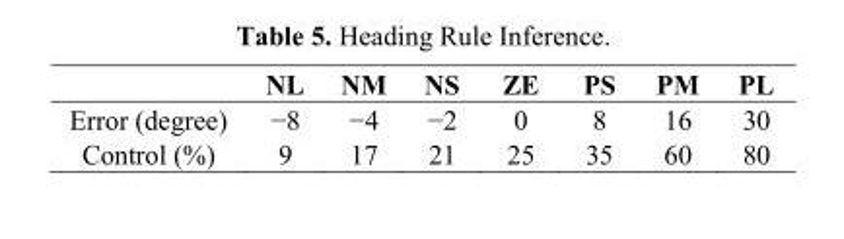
<table><thead><tr><td></td><td>NL</td><td>NM</td><td>NS</td><td>ZE</td><td>PS</td><td>PM</td><td>PL</td></tr></thead><tbody><tr><td>Error (degree)</td><td>−8</td><td>−4</td><td>−2</td><td>0</td><td>8</td><td>16</td><td>30</td></tr><tr><td>Control (%)</td><td>9</td><td>17</td><td>21</td><td>25</td><td>35</td><td>60</td><td>80</td></tr></tbody></table>